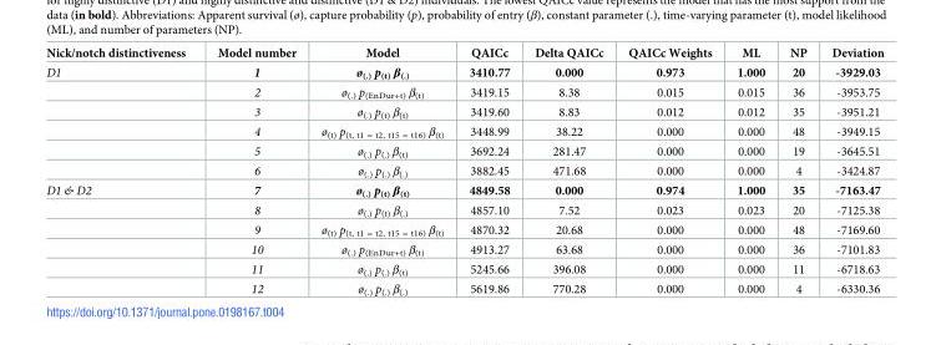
<table><thead><tr><td>Nick/notch distinctiveness</td><td>Model number</td><td>Model</td><td>QAICc</td><td>Delta QAICc</td><td>QAICc Weights</td><td>ML</td><td>NP</td><td>Deviation</td></tr></thead><tbody><tr><td rowspan="6">D1</td><td>1</td><td>ø<sub>(.)</sub> p<sub>(t)</sub> β<sub>(.)</sub></td><td>3410.77</td><td>0.000</td><td>0.973</td><td>1.000</td><td>20</td><td>-3929.03</td></tr><tr><td>2</td><td>ø<sub>(.)</sub> p<sub>(EnDur+t)</sub> β<sub>(t)</sub></td><td>3419.15</td><td>8.38</td><td>0.015</td><td>0.015</td><td>36</td><td>-3953.75</td></tr><tr><td>3</td><td>ø<sub>(.)</sub> p<sub>(t)</sub> β<sub>(t)</sub></td><td>3419.60</td><td>8.83</td><td>0.012</td><td>0.012</td><td>35</td><td>-3951.21</td></tr><tr><td>4</td><td>ø<sub>(t)</sub> p<sub>(t, t1 = t2, t15 = t16)</sub> β<sub>(t)</sub></td><td>3448.99</td><td>38.22</td><td>0.000</td><td>0.000</td><td>48</td><td>-3949.15</td></tr><tr><td>5</td><td>ø<sub>(.)</sub> p<sub>(.)</sub> β<sub>(t)</sub></td><td>3692.24</td><td>281.47</td><td>0.000</td><td>0.000</td><td>19</td><td>-3645.51</td></tr><tr><td>6</td><td>ø<sub>(.)</sub> p<sub>(.)</sub> β<sub>(.)</sub></td><td>3882.45</td><td>471.68</td><td>0.000</td><td>0.000</td><td>4</td><td>-3424.87</td></tr><tr><td rowspan="6">D1 &amp; D2</td><td>7</td><td>ø<sub>(.)</sub> p<sub>(t)</sub> β<sub>(t)</sub></td><td>4849.58</td><td>0.000</td><td>0.974</td><td>1.000</td><td>35</td><td>-7163.47</td></tr><tr><td>8</td><td>ø<sub>(.)</sub> p<sub>(t)</sub> β<sub>(.)</sub></td><td>4857.10</td><td>7.52</td><td>0.023</td><td>0.023</td><td>20</td><td>-7125.38</td></tr><tr><td>9</td><td>ø<sub>(t)</sub> p<sub>(t, t1 = t2, t15 = t16)</sub> β<sub>(t)</sub></td><td>4870.32</td><td>20.68</td><td>0.000</td><td>0.000</td><td>48</td><td>-7169.60</td></tr><tr><td>10</td><td>ø<sub>(.)</sub> p<sub>(EnDur+t)</sub> β<sub>(t)</sub></td><td>4913.27</td><td>63.68</td><td>0.000</td><td>0.000</td><td>36</td><td>-7101.83</td></tr><tr><td>11</td><td>ø<sub>(.)</sub> p<sub>(.)</sub> β<sub>(t)</sub></td><td>5245.66</td><td>396.08</td><td>0.000</td><td>0.000</td><td>11</td><td>-6718.63</td></tr><tr><td>12</td><td>ø<sub>(.)</sub> p<sub>(.)</sub> β<sub>(.)</sub></td><td>5619.86</td><td>770.28</td><td>0.000</td><td>0.000</td><td>4</td><td>-6330.36</td></tr></tbody></table>